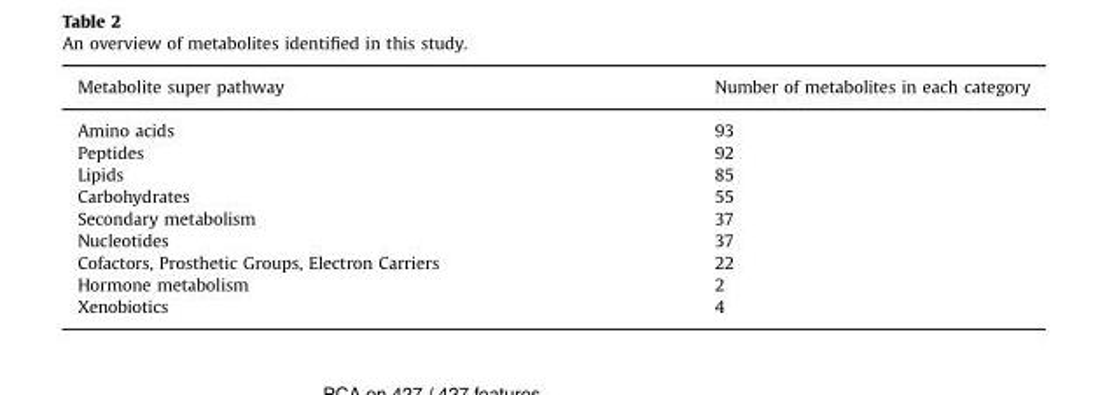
<table><thead><tr><td>Metabolite super pathway</td><td>Number of metabolites in each category</td></tr></thead><tbody><tr><td>Amino acids</td><td>93</td></tr><tr><td>Peptides</td><td>92</td></tr><tr><td>Lipids</td><td>85</td></tr><tr><td>Carbohydrates</td><td>55</td></tr><tr><td>Secondary metabolism</td><td>37</td></tr><tr><td>Nucleotides</td><td>37</td></tr><tr><td>Cofactors, Prosthetic Groups, Electron Carriers</td><td>22</td></tr><tr><td>Hormone metabolism</td><td>2</td></tr><tr><td>Xenobiotics</td><td>4</td></tr></tbody></table>